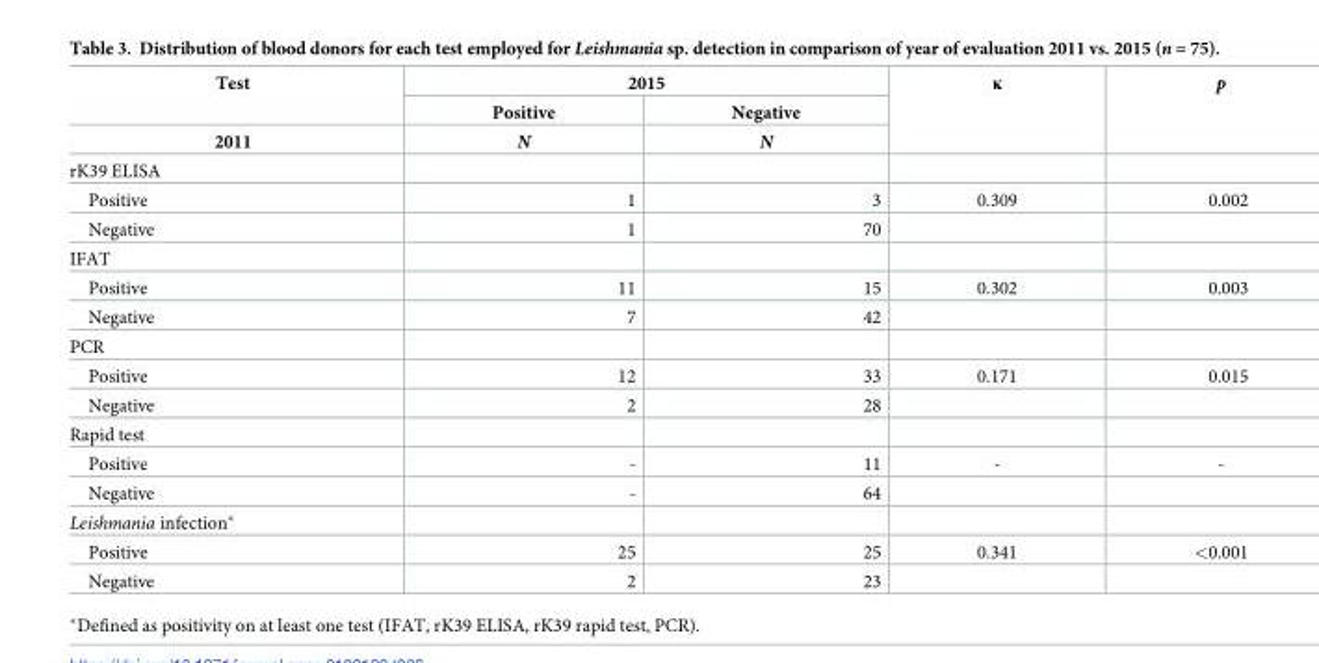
<table><thead><tr><td rowspan="3">Test 2011</td><td colspan="2">2015</td><td rowspan="3">κ</td><td rowspan="3">p</td></tr><tr><td rowspan="2">Positive N</td><td rowspan="2">Negative N</td></tr><tr></tr></thead><tbody><tr><td colspan="5">rK39 ELISA</td></tr><tr><td>Positive</td><td>1</td><td>3</td><td>0.309</td><td>0.002</td></tr><tr><td>Negative</td><td>1</td><td>70</td><td></td><td></td></tr><tr><td colspan="5">IFAT</td></tr><tr><td>Positive</td><td>11</td><td>15</td><td>0.302</td><td>0.003</td></tr><tr><td>Negative</td><td>7</td><td>42</td><td></td><td></td></tr><tr><td colspan="5">PCR</td></tr><tr><td>Positive</td><td>12</td><td>33</td><td>0.171</td><td>0.015</td></tr><tr><td>Negative</td><td>2</td><td>28</td><td></td><td></td></tr><tr><td colspan="5">Rapid test</td></tr><tr><td>Positive</td><td>-</td><td>11</td><td>-</td><td>-</td></tr><tr><td>Negative</td><td>-</td><td>64</td><td></td><td></td></tr><tr><td colspan="5">Leishmania infection*</td></tr><tr><td>Positive</td><td>25</td><td>25</td><td>0.341</td><td>&lt;0.001</td></tr><tr><td>Negative</td><td>2</td><td>23</td><td></td><td></td></tr></tbody></table>